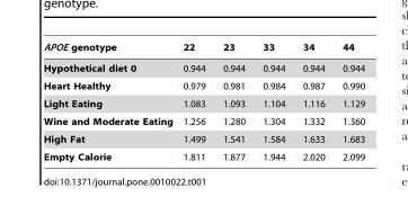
<table><thead><tr><td>APOE genotype</td><td>22</td><td>23</td><td>33</td><td>34</td><td>44</td></tr></thead><tbody><tr><td>Hypothetical diet 0</td><td>0.944</td><td>0.944</td><td>0.944</td><td>0.944</td><td>0.944</td></tr><tr><td>Heart Healthy</td><td>0.979</td><td>0.981</td><td>0.984</td><td>0.987</td><td>0.990</td></tr><tr><td>Light Eating</td><td>1.083</td><td>1.093</td><td>1.104</td><td>1.116</td><td>1.129</td></tr><tr><td>Wine and Moderate Eating</td><td>1.256</td><td>1.280</td><td>1.304</td><td>1.332</td><td>1.360</td></tr><tr><td>High Fat</td><td>1.499</td><td>1.541</td><td>1.584</td><td>1.633</td><td>1.683</td></tr><tr><td>Empty Calorie</td><td>1.811</td><td>1.877</td><td>1.944</td><td>2.020</td><td>2.099</td></tr></tbody></table>